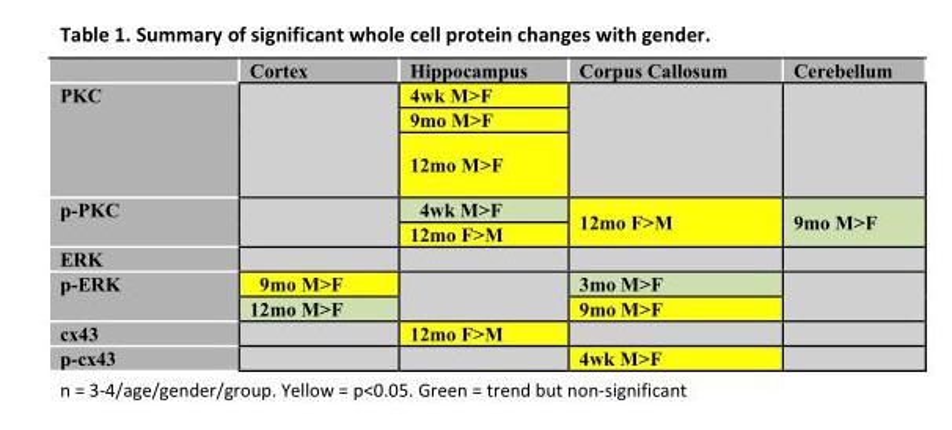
<table><thead><tr><td></td><td>Cortex</td><td>Hippocampus</td><td>Corpus Callosum</td><td>Cerebellum</td></tr></thead><tbody><tr><td rowspan="3">PKC</td><td rowspan="3"></td><td>4wk M&gt;F</td><td rowspan="3"></td><td rowspan="3"></td></tr><tr><td>9mo M&gt;F</td></tr><tr><td>12mo M&gt;F</td></tr><tr><td rowspan="2">p-PKC</td><td rowspan="2"></td><td>4wk M&gt;F</td><td rowspan="2">12mo F&gt;M</td><td rowspan="2">9mo M&gt;F</td></tr><tr><td>12mo F&gt;M</td></tr><tr><td colspan="5">ERK</td></tr><tr><td rowspan="2">p-ERK</td><td>9mo M&gt;F</td><td rowspan="2"></td><td>3mo M&gt;F</td><td rowspan="2"></td></tr><tr><td>12mo M&gt;F</td><td>9mo M&gt;F</td></tr><tr><td>cx43</td><td></td><td>12mo F&gt;M</td><td></td><td></td></tr><tr><td>p-cx43</td><td></td><td></td><td>4wk M&gt;F</td><td></td></tr></tbody></table>